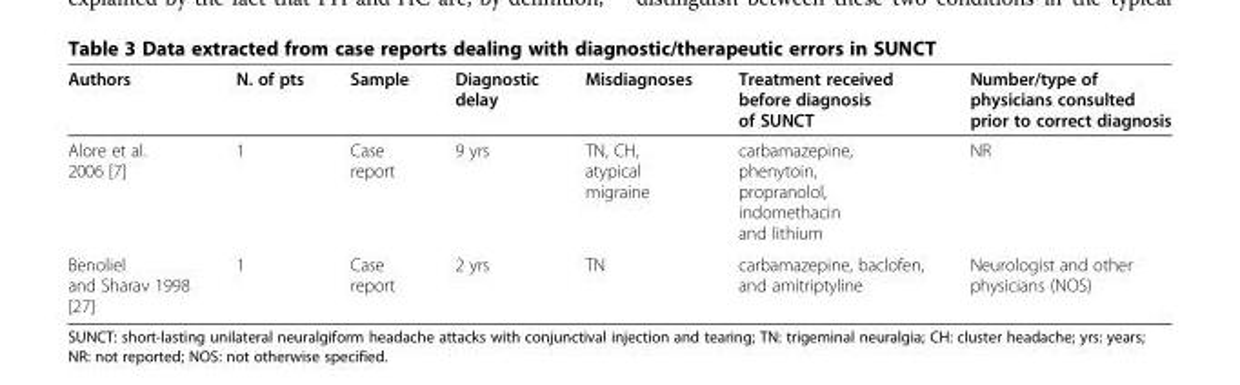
<table><thead><tr><td>Authors</td><td>N. of pts</td><td>Sample</td><td>Diagnostic delay</td><td>Misdiagnoses</td><td>Treatment received before diagnosis of SUNCT</td><td>Number/type of physicians consulted prior to correct diagnosis</td></tr></thead><tbody><tr><td>Alore et al. 2006 [7]</td><td>1</td><td>Case report</td><td>9 yrs</td><td>TN, CH, atypical migraine</td><td>carbamazepine, phenytoin, propranolol, indomethacin and lithium</td><td>NR</td></tr><tr><td>Benoliel and Sharav 1998 [27]</td><td>1</td><td>Case report</td><td>2 yrs</td><td>TN</td><td>carbamazepine, baclofen, and amitriptyline</td><td>Neurologist and other physicians (NOS)</td></tr></tbody></table>